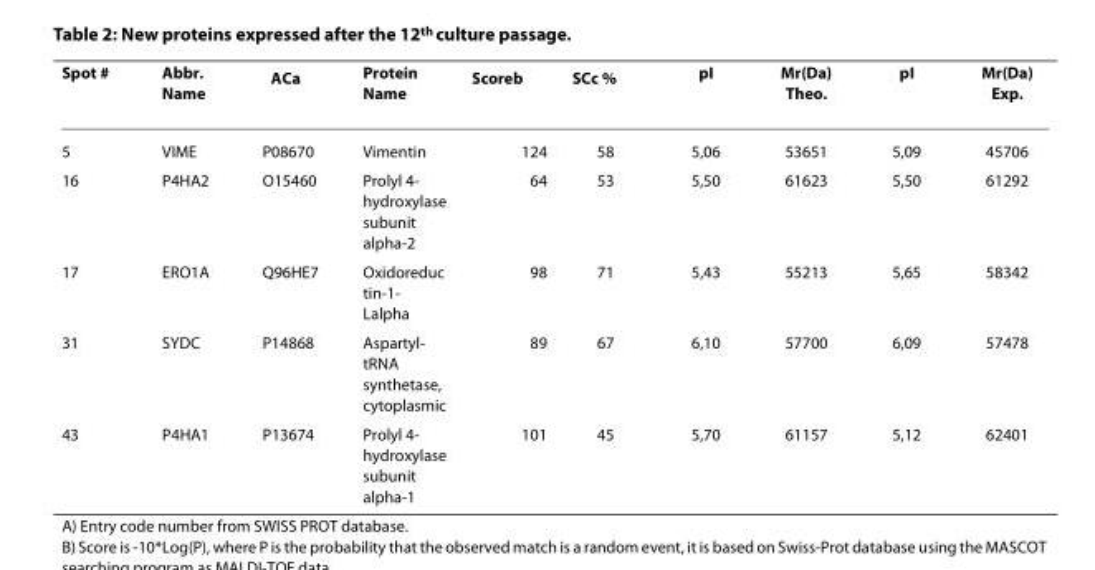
<table><thead><tr><td>Spot #</td><td>Abbr. Name</td><td>AC<sup>a</sup></td><td>Protein Name</td><td>Score<sup>b</sup></td><td>SC<sup>c</sup> %</td><td>pI</td><td>Mr(Da) Theo.</td><td>pI</td><td>Mr(Da) Exp.</td></tr></thead><tbody><tr><td>5</td><td>VIME</td><td>P08670</td><td>Vimentin</td><td>124</td><td>58</td><td>5,06</td><td>53651</td><td>5,09</td><td>45706</td></tr><tr><td>16</td><td>P4HA2</td><td>O15460</td><td>Prolyl 4- hydroxylase subunit alpha-2</td><td>64</td><td>53</td><td>5,50</td><td>61623</td><td>5,50</td><td>61292</td></tr><tr><td>17</td><td>ERO1A</td><td>Q96HE7</td><td>Oxidoreduc tin-1- Lalpha</td><td>98</td><td>71</td><td>5,43</td><td>55213</td><td>5,65</td><td>58342</td></tr><tr><td>31</td><td>SYDC</td><td>P14868</td><td>Aspartyl- tRNA synthetase, cytoplasmic</td><td>89</td><td>67</td><td>6,10</td><td>57700</td><td>6,09</td><td>57478</td></tr><tr><td>43</td><td>P4HA1</td><td>P13674</td><td>Prolyl 4- hydroxylase subunit alpha-1</td><td>101</td><td>45</td><td>5,70</td><td>61157</td><td>5,12</td><td>62401</td></tr></tbody></table>